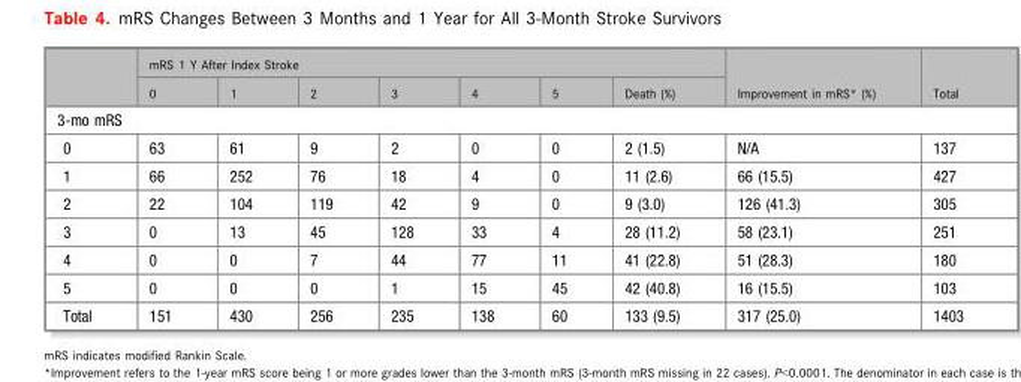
<table><thead><tr><td rowspan="2"></td><td colspan="7">mRS 1 Y After Index Stroke</td><td rowspan="2">Improvement in mRS* (%)</td><td rowspan="2">Total</td></tr><tr><td>0</td><td>1</td><td>2</td><td>3</td><td>4</td><td>5</td><td>Death (%)</td></tr></thead><tbody><tr><td colspan="10">3-mo mRS</td></tr><tr><td>0</td><td>63</td><td>61</td><td>9</td><td>2</td><td>0</td><td>0</td><td>2 (1.5)</td><td>N/A</td><td>137</td></tr><tr><td>1</td><td>66</td><td>252</td><td>76</td><td>18</td><td>4</td><td>0</td><td>11 (2.6)</td><td>66 (15.5)</td><td>427</td></tr><tr><td>2</td><td>22</td><td>104</td><td>119</td><td>42</td><td>9</td><td>0</td><td>9 (3.0)</td><td>126 (41.3)</td><td>305</td></tr><tr><td>3</td><td>0</td><td>13</td><td>45</td><td>128</td><td>33</td><td>4</td><td>28 (11.2)</td><td>58 (23.1)</td><td>251</td></tr><tr><td>4</td><td>0</td><td>0</td><td>7</td><td>44</td><td>77</td><td>11</td><td>41 (22.8)</td><td>51 (28.3)</td><td>180</td></tr><tr><td>5</td><td>0</td><td>0</td><td>0</td><td>1</td><td>15</td><td>45</td><td>42 (40.8)</td><td>16 (15.5)</td><td>103</td></tr><tr><td>Total</td><td>151</td><td>430</td><td>256</td><td>235</td><td>138</td><td>60</td><td>133 (9.5)</td><td>317 (25.0)</td><td>1403</td></tr></tbody></table>